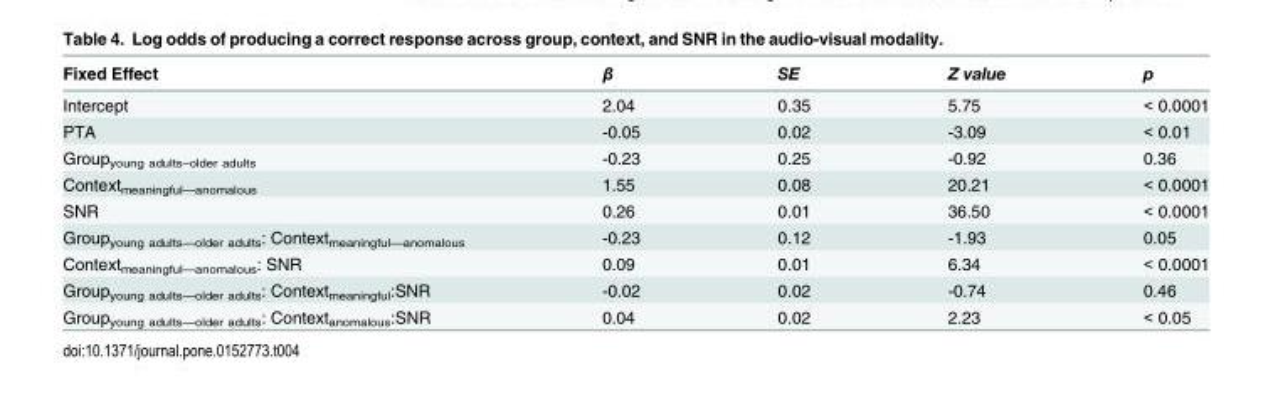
<table><thead><tr><td>Fixed Effect</td><td>β</td><td>SE</td><td>Z value</td><td>p</td></tr></thead><tbody><tr><td>Intercept</td><td>2.04</td><td>0.35</td><td>5.75</td><td>&lt; 0.0001</td></tr><tr><td>PTA</td><td>-0.05</td><td>0.02</td><td>-3.09</td><td>&lt; 0.01</td></tr><tr><td>Group<sub>young adults–older adults</sub></td><td>-0.23</td><td>0.25</td><td>-0.92</td><td>0.36</td></tr><tr><td>Context<sub>meaningful—anomalous</sub></td><td>1.55</td><td>0.08</td><td>20.21</td><td>&lt; 0.0001</td></tr><tr><td>SNR</td><td>0.26</td><td>0.01</td><td>36.50</td><td>&lt; 0.0001</td></tr><tr><td>Group<sub>young adults—older adults</sub>: Context<sub>meaningful—anomalous</sub></td><td>-0.23</td><td>0.12</td><td>-1.93</td><td>0.05</td></tr><tr><td>Context<sub>meaningful—anomalous</sub>: SNR</td><td>0.09</td><td>0.01</td><td>6.34</td><td>&lt; 0.0001</td></tr><tr><td>Group<sub>young adults—older adults</sub>: Context<sub>meaningful</sub>:SNR</td><td>-0.02</td><td>0.02</td><td>-0.74</td><td>0.46</td></tr><tr><td>Group<sub>young adults—older adults</sub>: Context<sub>anomalous</sub>:SNR</td><td>0.04</td><td>0.02</td><td>2.23</td><td>&lt; 0.05</td></tr></tbody></table>